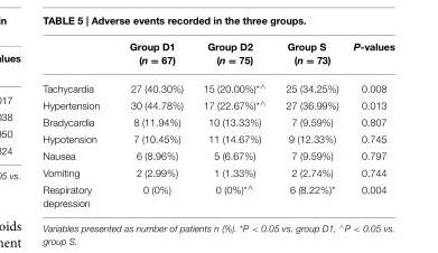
<table><thead><tr><td></td><td>Group D1 (n = 67)</td><td>Group D2 (n = 75)</td><td>Group S (n = 73)</td><td>P-values</td></tr></thead><tbody><tr><td>Tachycardia</td><td>27 (40.30%)</td><td>15 (20.00%)<sup>*∧</sup></td><td>25 (34.25%)</td><td>0.008</td></tr><tr><td>Hypertension</td><td>30 (44.78%)</td><td>17 (22.67%)<sup>*∧</sup></td><td>27 (36.99%)</td><td>0.013</td></tr><tr><td>Bradycardia</td><td>8 (11.94%)</td><td>10 (13.33%)</td><td>7 (9.59%)</td><td>0.807</td></tr><tr><td>Hypotension</td><td>7 (10.45%)</td><td>11 (14.67%)</td><td>9 (12.33%)</td><td>0.745</td></tr><tr><td>Nausea</td><td>6 (8.96%)</td><td>5 (6.67%)</td><td>7 (9.59%)</td><td>0.797</td></tr><tr><td>Vomiting</td><td>2 (2.99%)</td><td>1 (1.33%)</td><td>2 (2.74%)</td><td>0.744</td></tr><tr><td>Respiratory depression</td><td>0 (0%)</td><td>0 (0%)<sup>*∧</sup></td><td>6 (8.22%)*</td><td>0.004</td></tr></tbody></table>